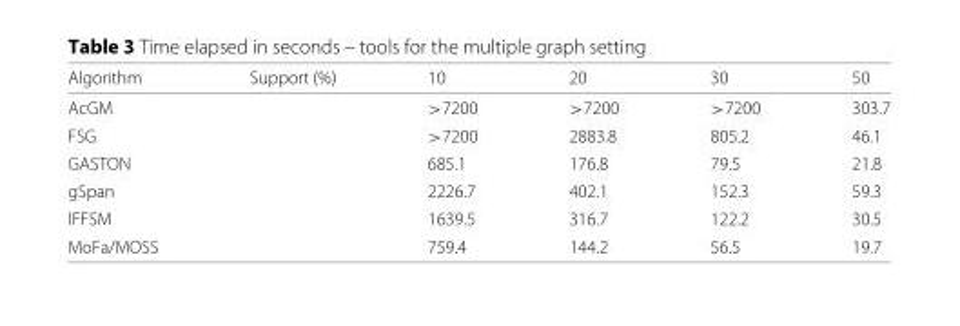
<table><thead><tr><td>Algorithm</td><td>Support (%)</td><td>10</td><td>20</td><td>30</td><td>50</td></tr></thead><tbody><tr><td>AcGM</td><td></td><td>&gt;7200</td><td>&gt;7200</td><td>&gt;7200</td><td>303.7</td></tr><tr><td>FSG</td><td></td><td>&gt;7200</td><td>2883.8</td><td>805.2</td><td>46.1</td></tr><tr><td>GASTON</td><td></td><td>685.1</td><td>176.8</td><td>79.5</td><td>21.8</td></tr><tr><td>gSpan</td><td></td><td>2226.7</td><td>402.1</td><td>152.3</td><td>59.3</td></tr><tr><td>lFFSM</td><td></td><td>1639.5</td><td>316.7</td><td>122.2</td><td>30.5</td></tr><tr><td>MoFa/MOSS</td><td></td><td>759.4</td><td>144.2</td><td>56.5</td><td>19.7</td></tr></tbody></table>